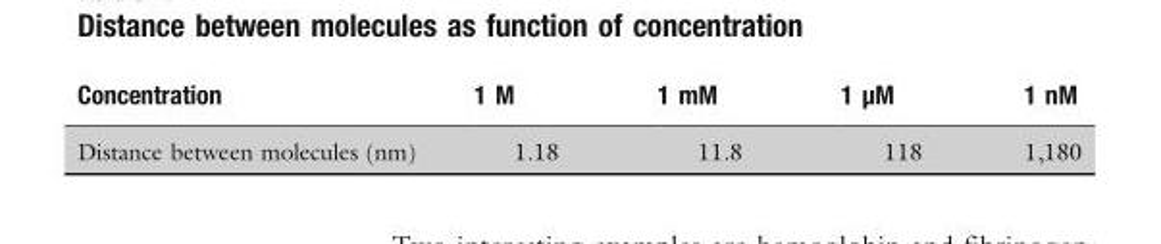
<table><thead><tr><td>Concentration</td><td>1 M</td><td>1 mM</td><td>1 μM</td><td>1 nM</td></tr></thead><tbody><tr><td>Distance between molecules (nm)</td><td>1.18</td><td>11.8</td><td>118</td><td>1,180</td></tr></tbody></table>